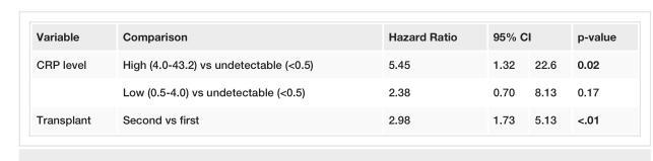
<table><tbody><tr><td>Variable</td><td>Comparison</td><td>Hazard Ratio</td><td colspan="2">95% CI</td><td>p-value</td></tr><tr><td rowspan="2">CRP level</td><td>High (4.0-43.2) vs undetectable (&lt;0.5)</td><td>5.45</td><td>1.32</td><td>22.6</td><td>0.02</td></tr><tr><td>Low (0.5-4.0) vs undetectable (&lt;0.5)</td><td>2.38</td><td>0.70</td><td>8.13</td><td>0.17</td></tr><tr><td>Transplant</td><td>Second vs first</td><td>2.98</td><td>1.73</td><td>5.13</td><td>&lt;.01</td></tr></tbody></table>